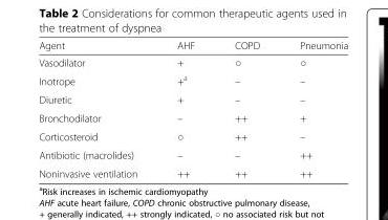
<table><thead><tr><td>Agent</td><td>AHF</td><td>COPD</td><td>Pneumonia</td></tr></thead><tbody><tr><td>Vasodilator</td><td>+</td><td>○</td><td>○</td></tr><tr><td>Inotrope</td><td>+<sup>a</sup></td><td>–</td><td>–</td></tr><tr><td>Diuretic</td><td>+</td><td>–</td><td>–</td></tr><tr><td>Bronchodilator</td><td>–</td><td>++</td><td>+</td></tr><tr><td>Corticosteroid</td><td>○</td><td>++</td><td>–</td></tr><tr><td>Antibiotic (macrolides)</td><td>–</td><td>–</td><td>++</td></tr><tr><td>Noninvasive ventilation</td><td>++</td><td>++</td><td>++</td></tr></tbody></table>